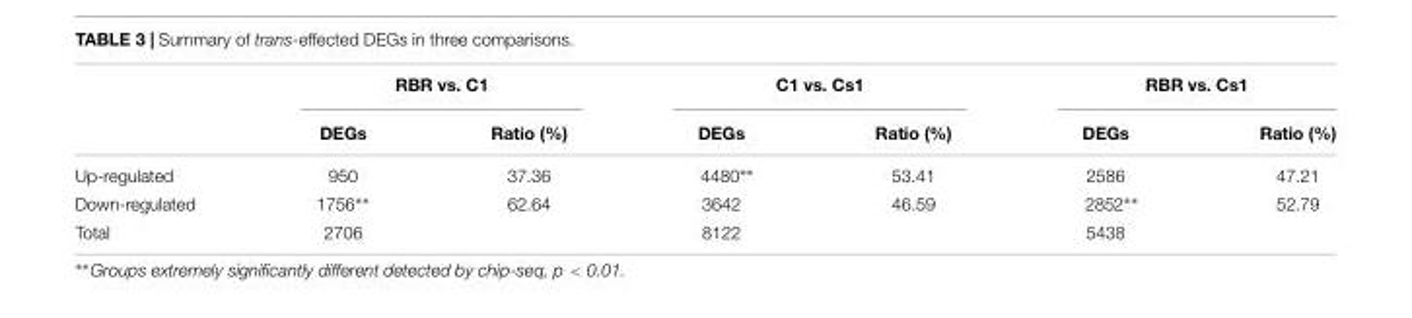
<table><thead><tr><td rowspan="2"></td><td colspan="2">RBR vs. C1</td><td colspan="2">C1 vs. Cs1</td><td colspan="2">RBR vs. Cs1</td></tr><tr><td>DEGs</td><td>Ratio (%)</td><td>DEGs</td><td>Ratio (%)</td><td>DEGs</td><td>Ratio (%)</td></tr></thead><tbody><tr><td>Up-regulated</td><td>950</td><td>37.36</td><td>4480∗∗</td><td>53.41</td><td>2586</td><td>47.21</td></tr><tr><td>Down-regulated</td><td>1756∗∗</td><td>62.64</td><td>3642</td><td>46.59</td><td>2852∗∗</td><td>52.79</td></tr><tr><td>Total</td><td>2706</td><td></td><td>8122</td><td></td><td>5438</td><td></td></tr></tbody></table>